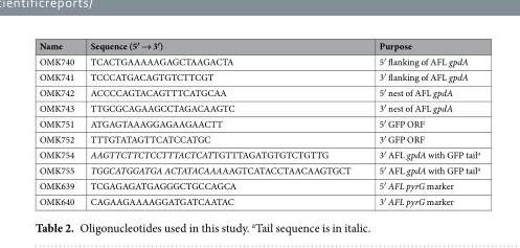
<table><thead><tr><td>Name</td><td>Sequence (5′ → 3′)</td><td>Purpose</td></tr></thead><tbody><tr><td>OMK740</td><td>TCACTGAAAAAGAGCTAAGACTA</td><td>5′ flanking of AFL gpdA</td></tr><tr><td>OMK741</td><td>TCCCATGACAGTGTCTTCGT</td><td>3′ flanking of AFL gpdA</td></tr><tr><td>OMK742</td><td>ACCCCAGTACAGTTTCATGCAA</td><td>5′ nest of AFL gpdA</td></tr><tr><td>OMK743</td><td>TTGCGCAGAAGCCTAGACAAGTC</td><td>3′ nest of AFL gpdA</td></tr><tr><td>OMK751</td><td>ATGAGTAAAGGAGAAGAACTT</td><td>5′ GFP ORF</td></tr><tr><td>OMK752</td><td>TTTGTATAGTTCATCCATGC</td><td>3′ GFP ORF</td></tr><tr><td>OMK754</td><td>AAGTTCTTCTCCTTTACTCATTGTTTAGATGTGTCTGTTG</td><td>3′ AFL gpdA with GFP tail<sup>a</sup></td></tr><tr><td>OMK755</td><td>TGGCATGGATGA ACTATACAAAAAGTCATACCTAACAAGTGCT</td><td>5′ AFL gpdA with GFP tail<sup>a</sup></td></tr><tr><td>OMK639</td><td>TCGAGAGATGAGGGCTGCCAGCA</td><td>5′ AFL pyrG marker</td></tr><tr><td>OMK640</td><td>CAGAAGAAAAGGATGATCAATAC</td><td>3′ AFL pyrG marker</td></tr></tbody></table>